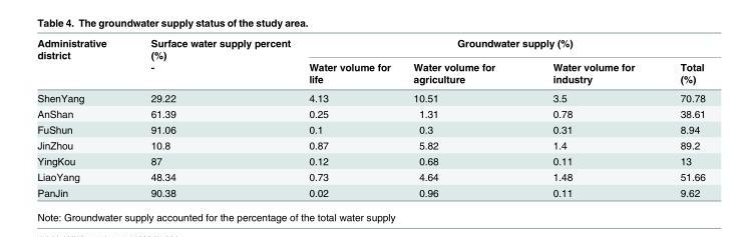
<table><thead><tr><td rowspan="2">Administrative district</td><td rowspan="2">Surface water supply percent (%) -</td><td colspan="4">Groundwater supply (%)</td></tr><tr><td>Water volume for life</td><td>Water volume for agriculture</td><td>Water volume for industry</td><td>Total (%)</td></tr></thead><tbody><tr><td>ShenYang</td><td>29.22</td><td>4.13</td><td>10.51</td><td>3.5</td><td>70.78</td></tr><tr><td>AnShan</td><td>61.39</td><td>0.25</td><td>1.31</td><td>0.78</td><td>38.61</td></tr><tr><td>FuShun</td><td>91.06</td><td>0.1</td><td>0.3</td><td>0.31</td><td>8.94</td></tr><tr><td>JinZhou</td><td>10.8</td><td>0.87</td><td>5.82</td><td>1.4</td><td>89.2</td></tr><tr><td>YingKou</td><td>87</td><td>0.12</td><td>0.68</td><td>0.11</td><td>13</td></tr><tr><td>LiaoYang</td><td>48.34</td><td>0.73</td><td>4.64</td><td>1.48</td><td>51.66</td></tr><tr><td>PanJin</td><td>90.38</td><td>0.02</td><td>0.96</td><td>0.11</td><td>9.62</td></tr></tbody></table>